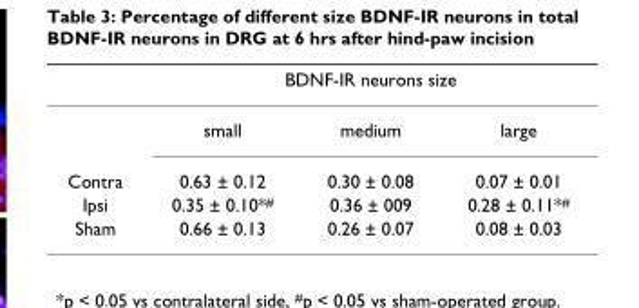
<table><thead><tr><td rowspan="2"></td><td colspan="3">BDNF-IR neurons size</td></tr><tr><td>small</td><td>medium</td><td>large</td></tr></thead><tbody><tr><td>Contra</td><td>0.63 ± 0.12</td><td>0.30 ± 0.08</td><td>0.07 ± 0.01</td></tr><tr><td>Ipsi</td><td>0.35 ± 0.10*<sup>#</sup></td><td>0.36 ± 009</td><td>0.28 ± 0.11*<sup>#</sup></td></tr><tr><td>Sham</td><td>0.66 ± 0.13</td><td>0.26 ± 0.07</td><td>0.08 ± 0.03</td></tr></tbody></table>